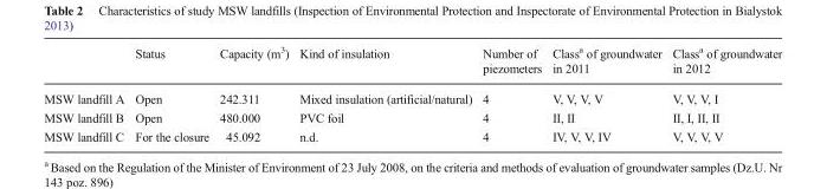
<table><thead><tr><td></td><td>Status</td><td>Capacity (m<sup>3</sup>)</td><td>Kind of insulation</td><td>Number of piezometers</td><td>Class<sup>a</sup> of groundwater in 2011</td><td>Class<sup>a</sup> of groundwater in 2012</td></tr></thead><tbody><tr><td>MSW landfill A</td><td>Open</td><td>242.311</td><td>Mixed insulation (artificial/natural)</td><td>4</td><td>V, V, V, V</td><td>V, V, V, I</td></tr><tr><td>MSW landfill B</td><td>Open</td><td>480.000</td><td>PVC foil</td><td>4</td><td>II, II</td><td>II, I, II, II</td></tr><tr><td>MSW landfill C</td><td>For the closure</td><td>45.092</td><td>n.d.</td><td>4</td><td>IV, V, V, IV</td><td>V, V, V, V</td></tr></tbody></table>